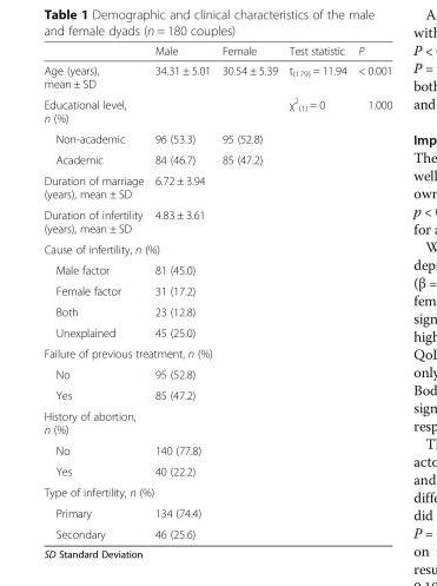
<table><thead><tr><td></td><td>Male</td><td>Female</td><td>Test statistic</td><td>P</td></tr></thead><tbody><tr><td>Age (years), mean ± SD</td><td>34.31 ± 5.01</td><td>30.54 ± 5.39</td><td>t<sub>(179)</sub> = 11.94</td><td>&lt; 0.001</td></tr><tr><td>Educational level, n (%)</td><td></td><td></td><td>χ<sup>2</sup> <sub>(1)</sub> = 0</td><td>1.000</td></tr><tr><td>Non-academic</td><td>96 (53.3)</td><td>95 (52.8)</td><td></td><td></td></tr><tr><td>Academic</td><td>84 (46.7)</td><td>85 (47.2)</td><td></td><td></td></tr><tr><td>Duration of marriage (years), mean ± SD</td><td colspan="2">6.72 ± 3.94</td><td></td><td></td></tr><tr><td>Duration of infertility (years), mean ± SD</td><td colspan="2">4.83 ± 3.61</td><td></td><td></td></tr><tr><td colspan="5">Cause of infertility, n (%)</td></tr><tr><td>Male factor</td><td colspan="2">81 (45.0)</td><td></td><td></td></tr><tr><td>Female factor</td><td colspan="2">31 (17.2)</td><td></td><td></td></tr><tr><td>Both</td><td colspan="2">23 (12.8)</td><td></td><td></td></tr><tr><td>Unexplained</td><td colspan="2">45 (25.0)</td><td></td><td></td></tr><tr><td colspan="5">Failure of previous treatment, n (%)</td></tr><tr><td>No</td><td colspan="2">95 (52.8)</td><td></td><td></td></tr><tr><td>Yes</td><td colspan="2">85 (47.2)</td><td></td><td></td></tr><tr><td colspan="5">History of abortion, n (%)</td></tr><tr><td>No</td><td colspan="2">140 (77.8)</td><td></td><td></td></tr><tr><td>Yes</td><td colspan="2">40 (22.2)</td><td></td><td></td></tr><tr><td colspan="5">Type of infertility, n (%)</td></tr><tr><td>Primary</td><td colspan="2">134 (74.4)</td><td></td><td></td></tr><tr><td>Secondary</td><td colspan="2">46 (25.6)</td><td></td><td></td></tr></tbody></table>